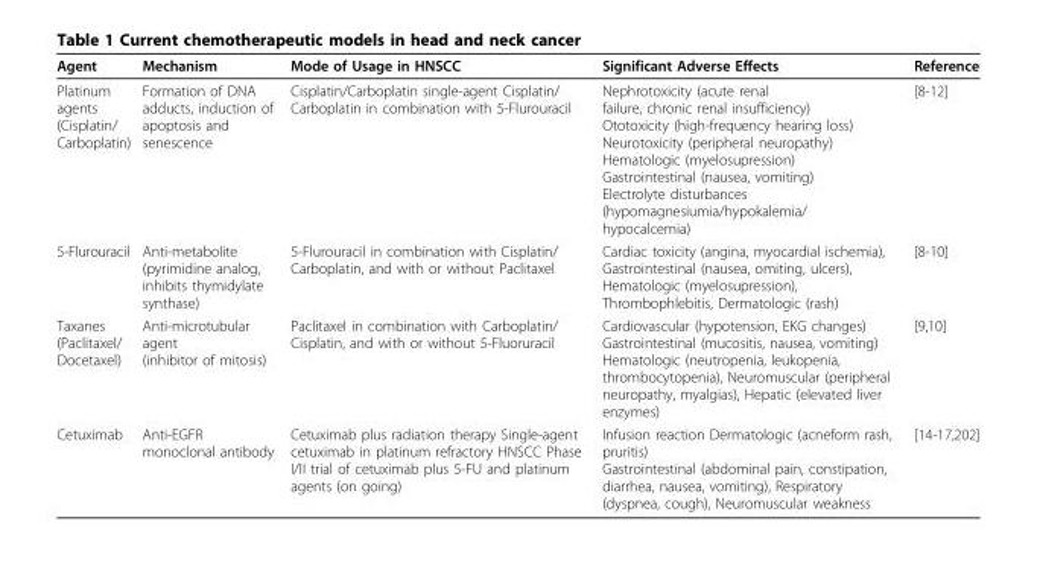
<table><thead><tr><td>Agent</td><td>Mechanism</td><td>Mode of Usage in HNSCC</td><td>Significant Adverse Effects</td><td>Reference</td></tr></thead><tbody><tr><td>Platinum agents (Cisplatin/ Carboplatin)</td><td>Formation of DNA adducts, induction of apoptosis and senescence</td><td>Cisplatin/Carboplatin single-agent Cisplatin/ Carboplatin in combination with 5-Flurouracil</td><td>Nephrotoxicity (acute renal failure, chronic renal insufficiency) Ototoxicity (high-frequency hearing loss) Neurotoxicity (peripheral neuropathy) Hematologic (myelosupression) Gastrointestinal (nausea, vomiting) Electrolyte disturbances (hypomagnesiumia/hypokalemia/ hypocalcemia)</td><td>[8-12]</td></tr><tr><td>5-Flurouracil</td><td>Anti-metabolite (pyrimidine analog, inhibits thymidylate synthase)</td><td>5-Flurouracil in combination with Cisplatin/ Carboplatin, and with or without Paclitaxel</td><td>Cardiac toxicity (angina, myocardial ischemia), Gastrointestinal (nausea, omiting, ulcers), Hematologic (myelosupression), Thrombophlebitis, Dermatologic (rash)</td><td>[8-10]</td></tr><tr><td>Taxanes (Paclitaxel/ Docetaxel)</td><td>Anti-microtubular agent (inhibitor of mitosis)</td><td>Paclitaxel in combination with Carboplatin/ Cisplatin, and with or without 5-Fluoruracil</td><td>Cardiovascular (hypotension, EKG changes) Gastrointestinal (mucositis, nausea, vomiting) Hematologic (neutropenia, leukopenia, thrombocytopenia), Neuromuscular (peripheral neuropathy, myalgias), Hepatic (elevated liver enzymes)</td><td>[9,10]</td></tr><tr><td>Cetuximab</td><td>Anti-EGFR monoclonal antibody</td><td>Cetuximab plus radiation therapy Single-agent cetuximab in platinum refractory HNSCC Phase I/II trial of cetuximab plus 5-FU and platinum agents (on going)</td><td>Infusion reaction Dermatologic (acneform rash, pruritis) Gastrointestinal (abdominal pain, constipation, diarrhea, nausea, vomiting), Respiratory (dyspnea, cough), Neuromuscular weakness</td><td>[14-17,202]</td></tr></tbody></table>